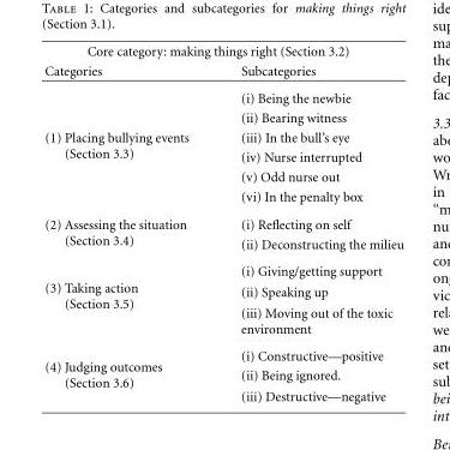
<table><thead><tr><td colspan="2">Core category: making things right (Section 3.2)</td></tr><tr><td>Categories</td><td>Subcategories</td></tr></thead><tbody><tr><td rowspan="6">(1) Placing bullying events (Section 3.3)</td><td>(i) Being the newbie</td></tr><tr><td>(ii) Bearing witness</td></tr><tr><td>(iii) In the bull’s eye</td></tr><tr><td>(iv) Nurse interrupted</td></tr><tr><td>(v) Odd nurse out</td></tr><tr><td>(vi) In the penalty box</td></tr><tr><td rowspan="2">(2) Assessing the situation (Section 3.4)</td><td>(i) Reflecting on self</td></tr><tr><td>(ii) Deconstructing the milieu</td></tr><tr><td rowspan="3">(3) Taking action (Section 3.5)</td><td>(i) Giving/getting support</td></tr><tr><td>(ii) Speaking up</td></tr><tr><td>(iii) Moving out of the toxic environment</td></tr><tr><td rowspan="3">(4) Judging outcomes (Section 3.6)</td><td>(i) Constructive—positive</td></tr><tr><td>(ii) Being ignored.</td></tr><tr><td>(iii) Destructive—negative</td></tr></tbody></table>